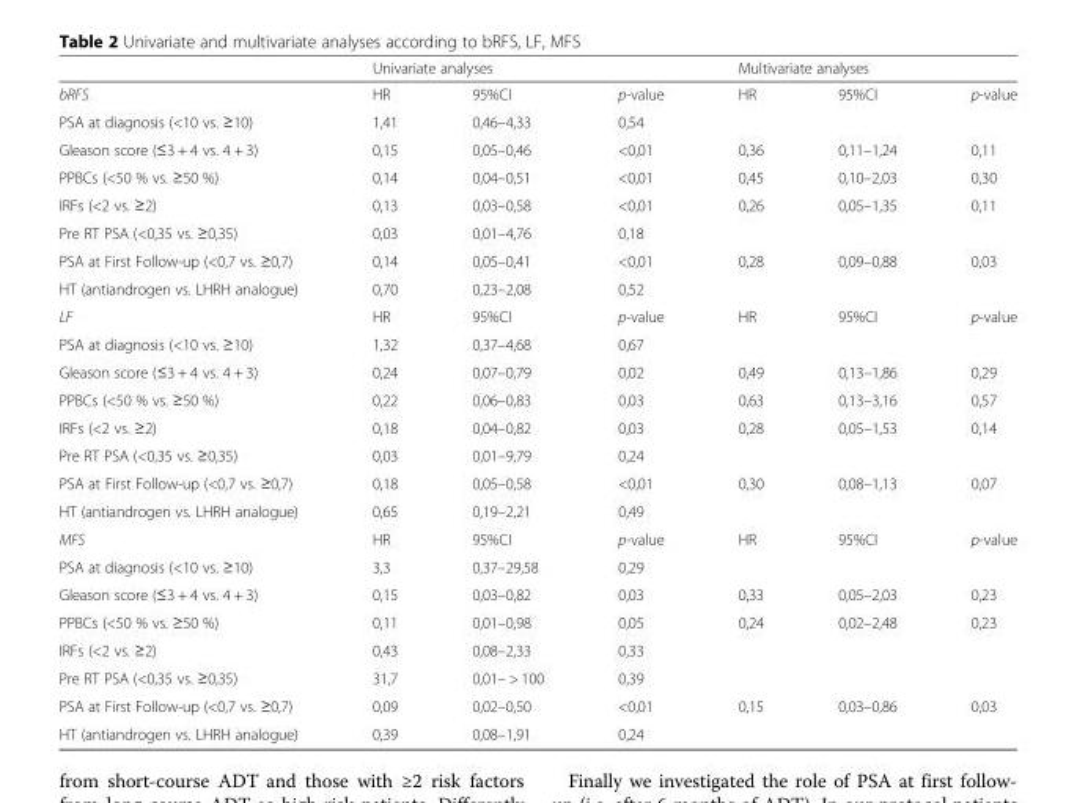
<table><thead><tr><td rowspan="2">bRFS</td><td colspan="3">Univariate analyses</td><td colspan="3">Multivariate analyses</td></tr><tr><td>HR</td><td>95%CI</td><td>p-value</td><td>HR</td><td>95%CI</td><td>p-value</td></tr></thead><tbody><tr><td>PSA at diagnosis (&lt;10 vs. ≥10)</td><td>1,41</td><td>0,46–4,33</td><td>0,54</td><td></td><td></td><td></td></tr><tr><td>Gleason score (≤3 + 4 vs. 4 + 3)</td><td>0,15</td><td>0,05–0,46</td><td>&lt;0,01</td><td>0,36</td><td>0,11–1,24</td><td>0,11</td></tr><tr><td>PPBCs (&lt;50 % vs. ≥50 %)</td><td>0,14</td><td>0,04–0,51</td><td>&lt;0,01</td><td>0,45</td><td>0,10–2,03</td><td>0,30</td></tr><tr><td>IRFs (&lt;2 vs. ≥2)</td><td>0,13</td><td>0,03–0,58</td><td>&lt;0,01</td><td>0,26</td><td>0,05–1,35</td><td>0,11</td></tr><tr><td>Pre RT PSA (&lt;0,35 vs. ≥0,35)</td><td>0,03</td><td>0,01–4,76</td><td>0,18</td><td></td><td></td><td></td></tr><tr><td>PSA at First Follow-up (&lt;0,7 vs. ≥0,7)</td><td>0,14</td><td>0,05–0,41</td><td>&lt;0,01</td><td>0,28</td><td>0,09–0,88</td><td>0,03</td></tr><tr><td>HT (antiandrogen vs. LHRH analogue)</td><td>0,70</td><td>0,23–2,08</td><td>0,52</td><td></td><td></td><td></td></tr><tr><td>LF</td><td>HR</td><td>95%CI</td><td>p-value</td><td>HR</td><td>95%CI</td><td>p-value</td></tr><tr><td>PSA at diagnosis (&lt;10 vs. ≥10)</td><td>1,32</td><td>0,37–4,68</td><td>0,67</td><td></td><td></td><td></td></tr><tr><td>Gleason score (≤3 + 4 vs. 4 + 3)</td><td>0,24</td><td>0,07–0,79</td><td>0,02</td><td>0,49</td><td>0,13–1,86</td><td>0,29</td></tr><tr><td>PPBCs (&lt;50 % vs. ≥50 %)</td><td>0,22</td><td>0,06–0,83</td><td>0,03</td><td>0,63</td><td>0,13–3,16</td><td>0,57</td></tr><tr><td>IRFs (&lt;2 vs. ≥2)</td><td>0,18</td><td>0,04–0,82</td><td>0,03</td><td>0,28</td><td>0,05–1,53</td><td>0,14</td></tr><tr><td>Pre RT PSA (&lt;0,35 vs. ≥0,35)</td><td>0,03</td><td>0,01–9,79</td><td>0,24</td><td></td><td></td><td></td></tr><tr><td>PSA at First Follow-up (&lt;0,7 vs. ≥0,7)</td><td>0,18</td><td>0,05–0,58</td><td>&lt;0,01</td><td>0,30</td><td>0,08–1,13</td><td>0,07</td></tr><tr><td>HT (antiandrogen vs. LHRH analogue)</td><td>0,65</td><td>0,19–2,21</td><td>0,49</td><td></td><td></td><td></td></tr><tr><td>MFS</td><td>HR</td><td>95%CI</td><td>p-value</td><td>HR</td><td>95%CI</td><td>p-value</td></tr><tr><td>PSA at diagnosis (&lt;10 vs. ≥10)</td><td>3,3</td><td>0,37–29,58</td><td>0,29</td><td></td><td></td><td></td></tr><tr><td>Gleason score (≤3 + 4 vs. 4 + 3)</td><td>0,15</td><td>0,03–0,82</td><td>0,03</td><td>0,33</td><td>0,05–2,03</td><td>0,23</td></tr><tr><td>PPBCs (&lt;50 % vs. ≥50 %)</td><td>0,11</td><td>0,01–0,98</td><td>0,05</td><td>0,24</td><td>0,02–2,48</td><td>0,23</td></tr><tr><td>IRFs (&lt;2 vs. ≥2)</td><td>0,43</td><td>0,08–2,33</td><td>0,33</td><td></td><td></td><td></td></tr><tr><td>Pre RT PSA (&lt;0,35 vs. ≥0,35)</td><td>31,7</td><td>0,01– &gt; 100</td><td>0,39</td><td></td><td></td><td></td></tr><tr><td>PSA at First Follow-up (&lt;0,7 vs. ≥0,7)</td><td>0,09</td><td>0,02–0,50</td><td>&lt;0,01</td><td>0,15</td><td>0,03–0,86</td><td>0,03</td></tr><tr><td>HT (antiandrogen vs. LHRH analogue)</td><td>0,39</td><td>0,08–1,91</td><td>0,24</td><td></td><td></td><td></td></tr></tbody></table>